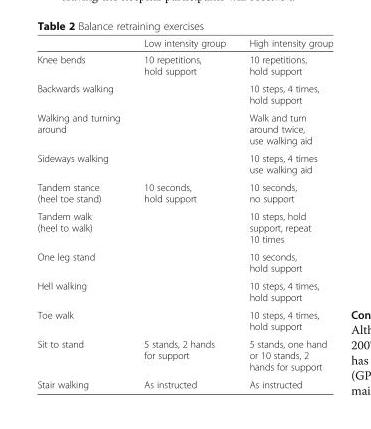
<table><thead><tr><td></td><td>Low intensity group</td><td>High intensity group</td></tr></thead><tbody><tr><td>Knee bends</td><td>10 repetitions, hold support</td><td>10 repetitions, hold support</td></tr><tr><td>Backwards walking</td><td></td><td>10 steps, 4 times, hold support</td></tr><tr><td>Walking and turning around</td><td></td><td>Walk and turn around twice, use walking aid</td></tr><tr><td>Sideways walking</td><td></td><td>10 steps, 4 times use walking aid</td></tr><tr><td>Tandem stance (heel toe stand)</td><td>10 seconds, hold support</td><td>10 seconds, no support</td></tr><tr><td>Tandem walk (heel to walk)</td><td></td><td>10 steps, hold support, repeat 10 times</td></tr><tr><td>One leg stand</td><td></td><td>10 seconds, hold support</td></tr><tr><td>Hell walking</td><td></td><td>10 steps, 4 times, hold support</td></tr><tr><td>Toe walk</td><td></td><td>10 steps, 4 times, hold support</td></tr><tr><td>Sit to stand</td><td>5 stands, 2 hands for support</td><td>5 stands, one hand or 10 stands, 2 hands for support</td></tr><tr><td>Stair walking</td><td>As instructed</td><td>As instructed</td></tr></tbody></table>